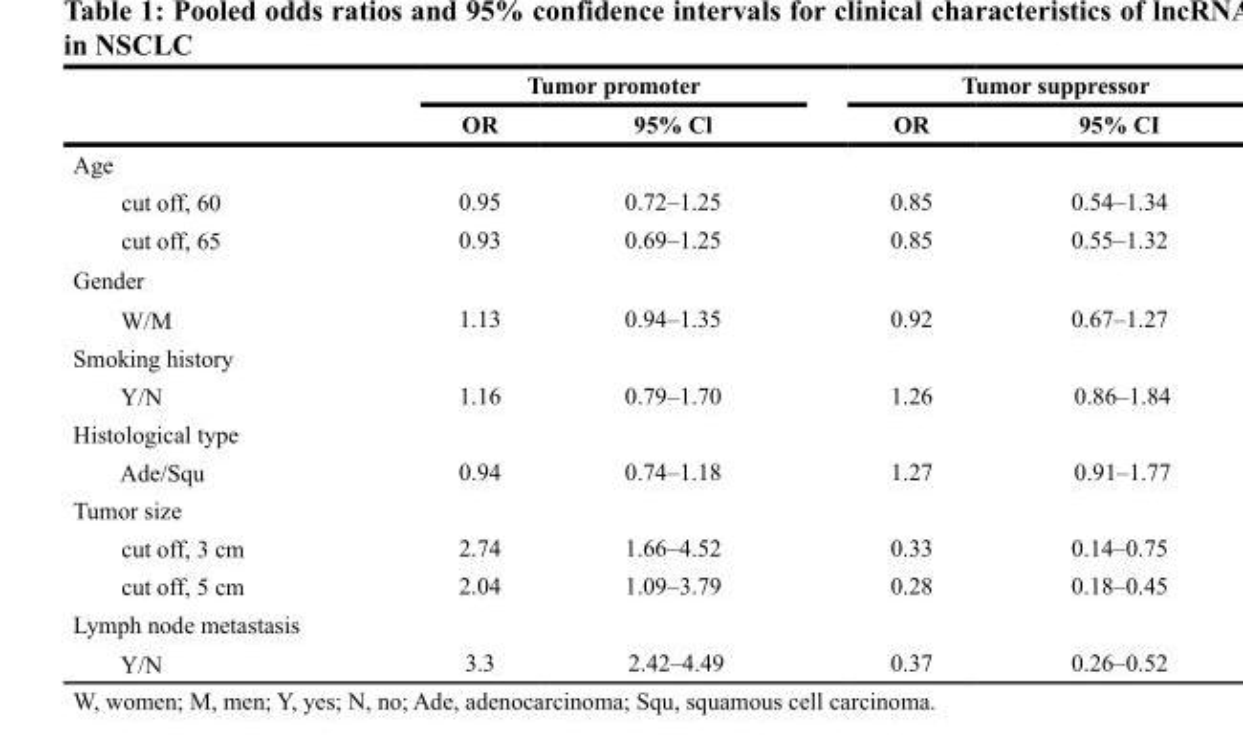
<table><thead><tr><td rowspan="2"></td><td colspan="2">Tumor promoter</td><td colspan="2">Tumor suppressor</td></tr><tr><td>OR</td><td>95% Cl</td><td>OR</td><td>95% CI</td></tr></thead><tbody><tr><td colspan="5">Age</td></tr><tr><td>cut off, 60</td><td>0.95</td><td>0.72–1.25</td><td>0.85</td><td>0.54–1.34</td></tr><tr><td>cut off, 65</td><td>0.93</td><td>0.69–1.25</td><td>0.85</td><td>0.55–1.32</td></tr><tr><td colspan="5">Gender</td></tr><tr><td>W/M</td><td>1.13</td><td>0.94–1.35</td><td>0.92</td><td>0.67–1.27</td></tr><tr><td colspan="5">Smoking history</td></tr><tr><td>Y/N</td><td>1.16</td><td>0.79–1.70</td><td>1.26</td><td>0.86–1.84</td></tr><tr><td colspan="5">Histological type</td></tr><tr><td>Ade/Squ</td><td>0.94</td><td>0.74–1.18</td><td>1.27</td><td>0.91–1.77</td></tr><tr><td colspan="5">Tumor size</td></tr><tr><td>cut off, 3 cm</td><td>2.74</td><td>1.66–4.52</td><td>0.33</td><td>0.14–0.75</td></tr><tr><td>cut off, 5 cm</td><td>2.04</td><td>1.09–3.79</td><td>0.28</td><td>0.18–0.45</td></tr><tr><td colspan="5">Lymph node metastasis</td></tr><tr><td>Y/N</td><td>3.3</td><td>2.42–4.49</td><td>0.37</td><td>0.26–0.52</td></tr></tbody></table>